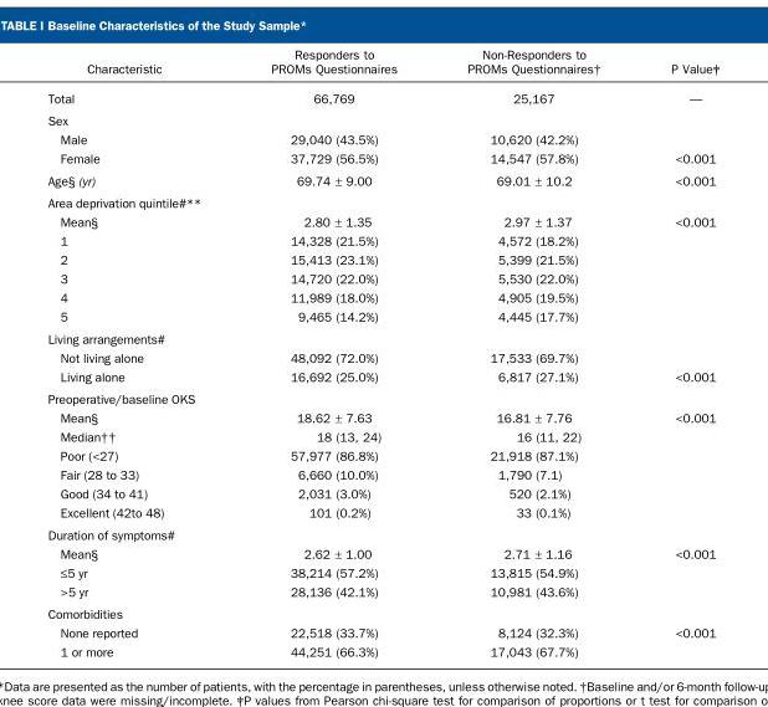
<table><thead><tr><td>Characteristic</td><td>Responders to PROMs Questionnaires</td><td>Non-Responders to PROMs Questionnaires†</td><td>P Value‡</td></tr></thead><tbody><tr><td>Total</td><td>66,769</td><td>25,167</td><td>—</td></tr><tr><td colspan="4">Sex</td></tr><tr><td>Male</td><td>29,040 (43.5%)</td><td>10,620 (42.2%)</td><td></td></tr><tr><td>Female</td><td>37,729 (56.5%)</td><td>14,547 (57.8%)</td><td>&lt;0.001</td></tr><tr><td>Age§ (yr)</td><td>69.74 ± 9.00</td><td>69.01 ± 10.2</td><td>&lt;0.001</td></tr><tr><td colspan="4">Area deprivation quintile#**</td></tr><tr><td>Mean§</td><td>2.80 ± 1.35</td><td>2.97 ± 1.37</td><td>&lt;0.001</td></tr><tr><td>1</td><td>14,328 (21.5%)</td><td>4,572 (18.2%)</td><td></td></tr><tr><td>2</td><td>15,413 (23.1%)</td><td>5,399 (21.5%)</td><td></td></tr><tr><td>3</td><td>14,720 (22.0%)</td><td>5,530 (22.0%)</td><td></td></tr><tr><td>4</td><td>11,989 (18.0%)</td><td>4,905 (19.5%)</td><td></td></tr><tr><td>5</td><td>9,465 (14.2%)</td><td>4,445 (17.7%)</td><td></td></tr><tr><td colspan="4">Living arrangements#</td></tr><tr><td>Not living alone</td><td>48,092 (72.0%)</td><td>17,533 (69.7%)</td><td></td></tr><tr><td>Living alone</td><td>16,692 (25.0%)</td><td>6,817 (27.1%)</td><td>&lt;0.001</td></tr><tr><td colspan="4">Preoperative/baseline OKS</td></tr><tr><td>Mean§</td><td>18.62 ± 7.63</td><td>16.81 ± 7.76</td><td>&lt;0.001</td></tr><tr><td>Median††</td><td>18 (13, 24)</td><td>16 (11, 22)</td><td></td></tr><tr><td>Poor (&lt;27)</td><td>57,977 (86.8%)</td><td>21,918 (87.1%)</td><td></td></tr><tr><td>Fair (28 to 33)</td><td>6,660 (10.0%)</td><td>1,790 (7.1)</td><td></td></tr><tr><td>Good (34 to 41)</td><td>2,031 (3.0%)</td><td>520 (2.1%)</td><td></td></tr><tr><td>Excellent (42to 48)</td><td>101 (0.2%)</td><td>33 (0.1%)</td><td></td></tr><tr><td colspan="4">Duration of symptoms#</td></tr><tr><td>Mean§</td><td>2.62 ± 1.00</td><td>2.71 ± 1.16</td><td>&lt;0.001</td></tr><tr><td>≤5 yr</td><td>38,214 (57.2%)</td><td>13,815 (54.9%)</td><td></td></tr><tr><td>&gt;5 yr</td><td>28,136 (42.1%)</td><td>10,981 (43.6%)</td><td></td></tr><tr><td colspan="4">Comorbidities</td></tr><tr><td>None reported</td><td>22,518 (33.7%)</td><td>8,124 (32.3%)</td><td>&lt;0.001</td></tr><tr><td>1 or more</td><td>44,251 (66.3%)</td><td>17,043 (67.7%)</td><td></td></tr></tbody></table>